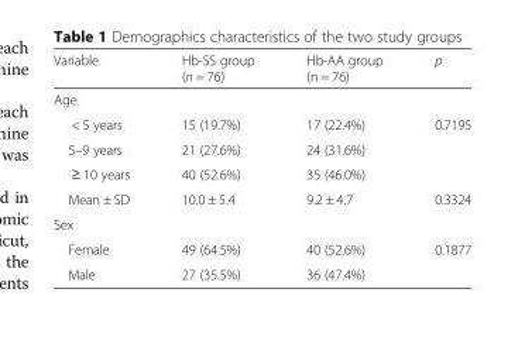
<table><thead><tr><td>Variable</td><td>Hb-SS group (n = 76)</td><td>Hb-AA group (n = 76)</td><td>p</td></tr></thead><tbody><tr><td colspan="4">Age</td></tr><tr><td>&lt; 5 years</td><td>15 (19.7%)</td><td>17 (22.4%)</td><td rowspan="3">0.7195</td></tr><tr><td>5–9 years</td><td>21 (27.6%)</td><td>24 (31.6%)</td></tr><tr><td>≥ 10 years</td><td>40 (52.6%)</td><td>35 (46.0%)</td></tr><tr><td>Mean ± SD</td><td>10.0 ± 5.4</td><td>9.2 ± 4.7</td><td>0.3324</td></tr><tr><td colspan="4">Sex</td></tr><tr><td>Female</td><td>49 (64.5%)</td><td>40 (52.6%)</td><td rowspan="2">0.1877</td></tr><tr><td>Male</td><td>27 (35.5%)</td><td>36 (47.4%)</td></tr></tbody></table>